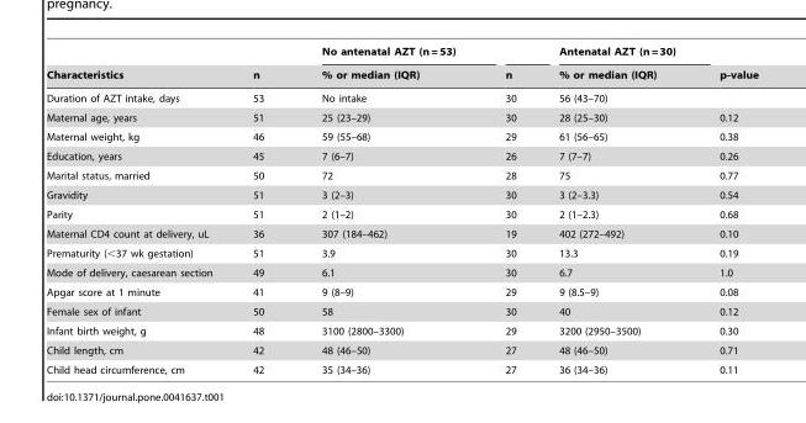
<table><thead><tr><td rowspan="2">Characteristics</td><td rowspan="2">n</td><td rowspan="2">No antenatal AZT (n = 53) % or median (IQR)</td><td rowspan="2">n</td><td rowspan="2">Antenatal AZT (n = 30) % or median (IQR)</td><td rowspan="2">p-value</td></tr><tr></tr></thead><tbody><tr><td>Duration of AZT intake, days</td><td>53</td><td>No intake</td><td>30</td><td>56 (43–70)</td><td></td></tr><tr><td>Maternal age, years</td><td>51</td><td>25 (23–29)</td><td>30</td><td>28 (25–30)</td><td>0.12</td></tr><tr><td>Maternal weight, kg</td><td>46</td><td>59 (55–68)</td><td>29</td><td>61 (56–65)</td><td>0.38</td></tr><tr><td>Education, years</td><td>45</td><td>7 (6–7)</td><td>26</td><td>7 (7–7)</td><td>0.26</td></tr><tr><td>Marital status, married</td><td>50</td><td>72</td><td>28</td><td>75</td><td>0.77</td></tr><tr><td>Gravidity</td><td>51</td><td>3 (2–3)</td><td>30</td><td>3 (2–3.3)</td><td>0.54</td></tr><tr><td>Parity</td><td>51</td><td>2 (1–2)</td><td>30</td><td>2 (1–2.3)</td><td>0.68</td></tr><tr><td>Maternal CD4 count at delivery, uL</td><td>36</td><td>307 (184–462)</td><td>19</td><td>402 (272–492)</td><td>0.10</td></tr><tr><td>Prematurity (&lt;37 wk gestation)</td><td>51</td><td>3.9</td><td>30</td><td>13.3</td><td>0.19</td></tr><tr><td>Mode of delivery, caesarean section</td><td>49</td><td>6.1</td><td>30</td><td>6.7</td><td>1.0</td></tr><tr><td>Apgar score at 1 minute</td><td>41</td><td>9 (8–9)</td><td>29</td><td>9 (8.5–9)</td><td>0.08</td></tr><tr><td>Female sex of infant</td><td>50</td><td>58</td><td>30</td><td>40</td><td>0.12</td></tr><tr><td>Infant birth weight, g</td><td>48</td><td>3100 (2800–3300)</td><td>29</td><td>3200 (2950–3500)</td><td>0.30</td></tr><tr><td>Child length, cm</td><td>42</td><td>48 (46–50)</td><td>27</td><td>48 (46–50)</td><td>0.71</td></tr><tr><td>Child head circumference, cm</td><td>42</td><td>35 (34–36)</td><td>27</td><td>36 (34–36)</td><td>0.11</td></tr></tbody></table>